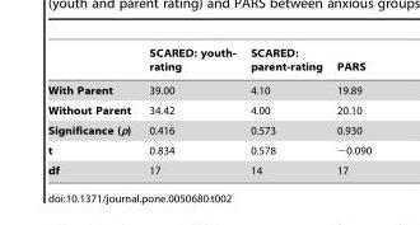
<table><thead><tr><td></td><td>SCARED: youth- rating</td><td>SCARED: parent-rating</td><td>PARS</td></tr></thead><tbody><tr><td>With Parent</td><td>39.00</td><td>4.10</td><td>19.89</td></tr><tr><td>Without Parent</td><td>34.42</td><td>4.00</td><td>20.10</td></tr><tr><td>Significance (p)</td><td>0.416</td><td>0.573</td><td>0.930</td></tr><tr><td>t</td><td>0.834</td><td>0.578</td><td>−0.090</td></tr><tr><td>df</td><td>17</td><td>14</td><td>17</td></tr></tbody></table>